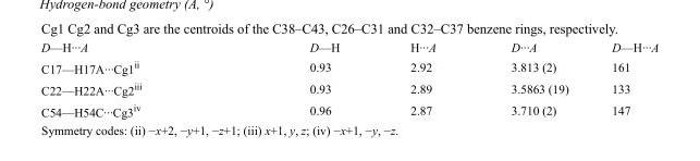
<table><tbody><tr><td>D—H···A</td><td>D—H</td><td>H···A</td><td>D···A</td><td>D—H···A</td></tr><tr><td>C17—H17A···Cg1<sup>ii</sup></td><td>0.93</td><td>2.92</td><td>3.813 (2)</td><td>161</td></tr><tr><td>C22—H22A···Cg2<sup>iii</sup></td><td>0.93</td><td>2.89</td><td>3.5863 (19)</td><td>133</td></tr><tr><td>C54—H54C···Cg3<sup>iv</sup></td><td>0.96</td><td>2.87</td><td>3.710 (2)</td><td>147</td></tr></tbody></table>